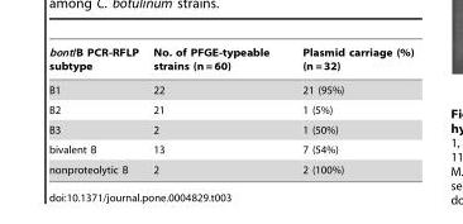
<table><thead><tr><td>bont/B PCR-RFLP subtype</td><td>No. of PFGE-typeable strains (n = 60)</td><td>Plasmid carriage (%) (n = 32)</td></tr></thead><tbody><tr><td>B1</td><td>22</td><td>21 (95%)</td></tr><tr><td>B2</td><td>21</td><td>1 (5%)</td></tr><tr><td>B3</td><td>2</td><td>1 (50%)</td></tr><tr><td>bivalent B</td><td>13</td><td>7 (54%)</td></tr><tr><td>nonproteolytic B</td><td>2</td><td>2 (100%)</td></tr></tbody></table>